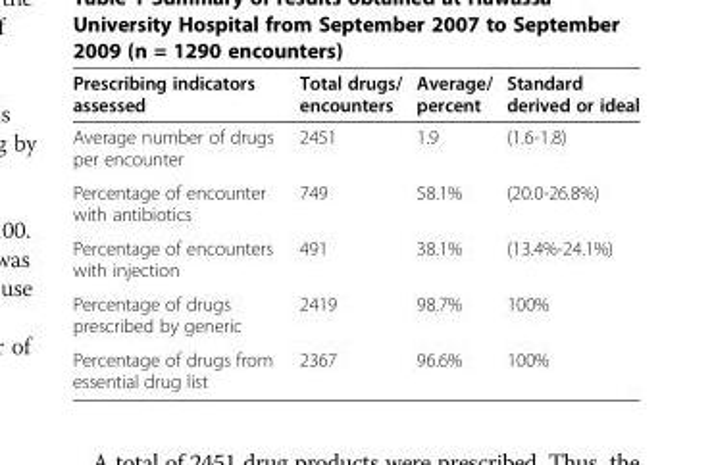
<table><thead><tr><td>Prescribing indicators assessed</td><td>Total drugs/ encounters</td><td>Average/ percent</td><td>Standard derived or ideal</td></tr></thead><tbody><tr><td>Average number of drugs per encounter</td><td>2451</td><td>1.9</td><td>(1.6-1.8)</td></tr><tr><td>Percentage of encounter with antibiotics</td><td>749</td><td>58.1%</td><td>(20.0-26.8%)</td></tr><tr><td>Percentage of encounters with injection</td><td>491</td><td>38.1%</td><td>(13.4%-24.1%)</td></tr><tr><td>Percentage of drugs prescribed by generic</td><td>2419</td><td>98.7%</td><td>100%</td></tr><tr><td>Percentage of drugs from essential drug list</td><td>2367</td><td>96.6%</td><td>100%</td></tr></tbody></table>